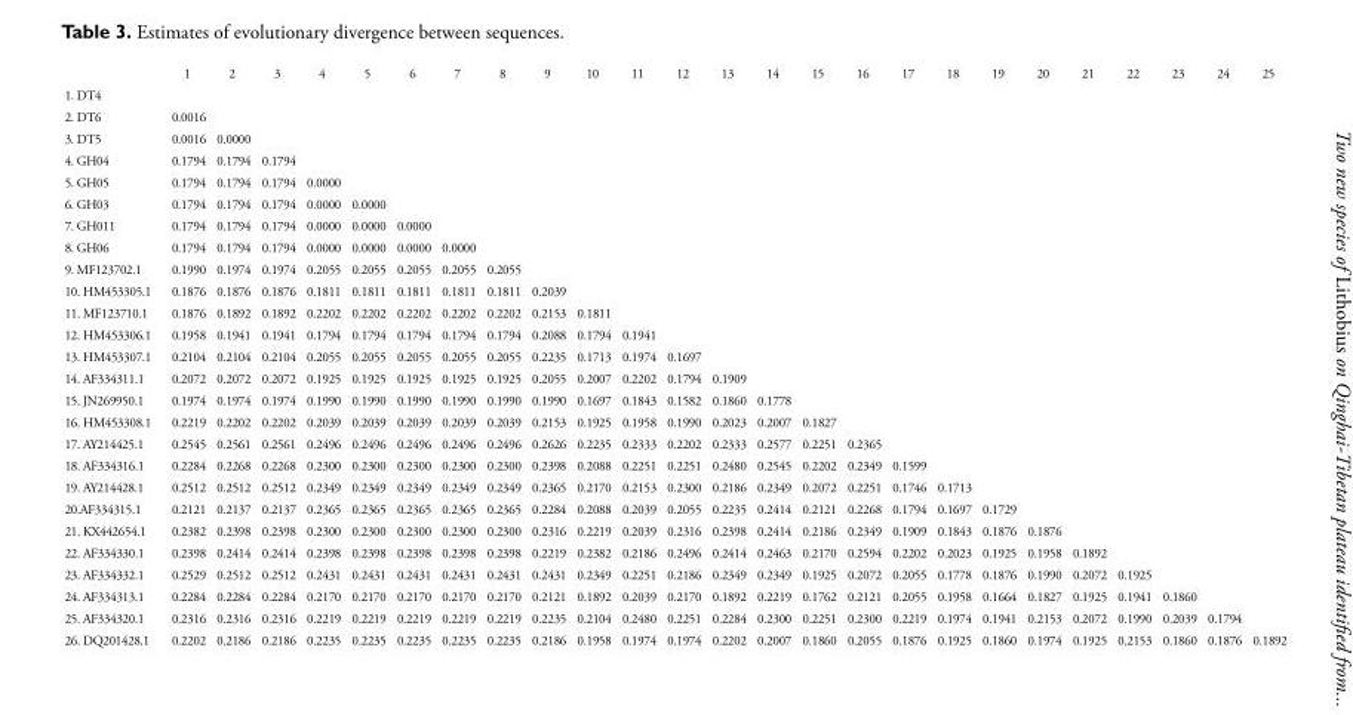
<table><thead><tr><td></td><td>1</td><td>2</td><td>3</td><td>4</td><td>5</td><td>6</td><td>7</td><td>8</td><td>9</td><td>10</td><td>11</td><td>12</td><td>13</td><td>14</td><td>15</td><td>16</td><td>17</td><td>18</td><td>19</td><td>20</td><td>21</td><td>22</td><td>23</td><td>24</td><td>25</td></tr></thead><tbody><tr><td colspan="26">1. DT4</td></tr><tr><td>2. DT6</td><td>0.0016</td><td></td><td></td><td></td><td></td><td></td><td></td><td></td><td></td><td></td><td></td><td></td><td></td><td></td><td></td><td></td><td></td><td></td><td></td><td></td><td></td><td></td><td></td><td></td><td></td></tr><tr><td>3. DT5</td><td>0.0016</td><td>0.0000</td><td></td><td></td><td></td><td></td><td></td><td></td><td></td><td></td><td></td><td></td><td></td><td></td><td></td><td></td><td></td><td></td><td></td><td></td><td></td><td></td><td></td><td></td><td></td></tr><tr><td>4. GH04</td><td>0.1794</td><td>0.1794</td><td>0.1794</td><td></td><td></td><td></td><td></td><td></td><td></td><td></td><td></td><td></td><td></td><td></td><td></td><td></td><td></td><td></td><td></td><td></td><td></td><td></td><td></td><td></td><td></td></tr><tr><td>5. GH05</td><td>0.1794</td><td>0.1794</td><td>0.1794</td><td>0.0000</td><td></td><td></td><td></td><td></td><td></td><td></td><td></td><td></td><td></td><td></td><td></td><td></td><td></td><td></td><td></td><td></td><td></td><td></td><td></td><td></td><td></td></tr><tr><td>6. GH03</td><td>0.1794</td><td>0.1794</td><td>0.1794</td><td>0.0000</td><td>0.0000</td><td></td><td></td><td></td><td></td><td></td><td></td><td></td><td></td><td></td><td></td><td></td><td></td><td></td><td></td><td></td><td></td><td></td><td></td><td></td><td></td></tr><tr><td>7. GH011</td><td>0.1794</td><td>0.1794</td><td>0.1794</td><td>0.0000</td><td>0.0000</td><td>0.0000</td><td></td><td></td><td></td><td></td><td></td><td></td><td></td><td></td><td></td><td></td><td></td><td></td><td></td><td></td><td></td><td></td><td></td><td></td><td></td></tr><tr><td>8. GH06</td><td>0.1794</td><td>0.1794</td><td>0.1794</td><td>0.0000</td><td>0.0000</td><td>0.0000</td><td>0.0000</td><td></td><td></td><td></td><td></td><td></td><td></td><td></td><td></td><td></td><td></td><td></td><td></td><td></td><td></td><td></td><td></td><td></td><td></td></tr><tr><td>9. MF123702.1</td><td>0.1990</td><td>0.1974</td><td>0.1974</td><td>0.2055</td><td>0.2055</td><td>0.2055</td><td>0.2055</td><td>0.2055</td><td></td><td></td><td></td><td></td><td></td><td></td><td></td><td></td><td></td><td></td><td></td><td></td><td></td><td></td><td></td><td></td><td></td></tr><tr><td>10. HM453305.1</td><td>0.1876</td><td>0.1876</td><td>0.1876</td><td>0.1811</td><td>0.1811</td><td>0.1811</td><td>0.1811</td><td>0.1811</td><td>0.2039</td><td></td><td></td><td></td><td></td><td></td><td></td><td></td><td></td><td></td><td></td><td></td><td></td><td></td><td></td><td></td><td></td></tr><tr><td>11. MF123710.1</td><td>0.1876</td><td>0.1892</td><td>0.1892</td><td>0.2202</td><td>0.2202</td><td>0.2202</td><td>0.2202</td><td>0.2202</td><td>0.2153</td><td>0.1811</td><td></td><td></td><td></td><td></td><td></td><td></td><td></td><td></td><td></td><td></td><td></td><td></td><td></td><td></td><td></td></tr><tr><td>12. HM453306.1</td><td>0.1958</td><td>0.1941</td><td>0.1941</td><td>0.1794</td><td>0.1794</td><td>0.1794</td><td>0.1794</td><td>0.1794</td><td>0.2088</td><td>0.1794</td><td>0.1941</td><td></td><td></td><td></td><td></td><td></td><td></td><td></td><td></td><td></td><td></td><td></td><td></td><td></td><td></td></tr><tr><td>13. HM453307.1</td><td>0.2104</td><td>0.2104</td><td>0.2104</td><td>0.2055</td><td>0.2055</td><td>0.2055</td><td>0.2055</td><td>0.2055</td><td>0.2235</td><td>0.1713</td><td>0.1974</td><td>0.1697</td><td></td><td></td><td></td><td></td><td></td><td></td><td></td><td></td><td></td><td></td><td></td><td></td><td></td></tr><tr><td>14. AF334311.1</td><td>0.2072</td><td>0.2072</td><td>0.2072</td><td>0.1925</td><td>0.1925</td><td>0.1925</td><td>0.1925</td><td>0.1925</td><td>0.2055</td><td>0.2007</td><td>0.2202</td><td>0.1794</td><td>0.1909</td><td></td><td></td><td></td><td></td><td></td><td></td><td></td><td></td><td></td><td></td><td></td><td></td></tr><tr><td>15. JN269950.1</td><td>0.1974</td><td>0.1974</td><td>0.1974</td><td>0.1990</td><td>0.1990</td><td>0.1990</td><td>0.1990</td><td>0.1990</td><td>0.1990</td><td>0.1697</td><td>0.1843</td><td>0.1582</td><td>0.1860</td><td>0.1778</td><td></td><td></td><td></td><td></td><td></td><td></td><td></td><td></td><td></td><td></td><td></td></tr><tr><td>16. HM453308.1</td><td>0.2219</td><td>0.2202</td><td>0.2202</td><td>0.2039</td><td>0.2039</td><td>0.2039</td><td>0.2039</td><td>0.2039</td><td>0.2153</td><td>0.1925</td><td>0.1958</td><td>0.1990</td><td>0.2023</td><td>0.2007</td><td>0.1827</td><td></td><td></td><td></td><td></td><td></td><td></td><td></td><td></td><td></td><td></td></tr><tr><td>17. AY214425.1</td><td>0.2545</td><td>0.2561</td><td>0.2561</td><td>0.2496</td><td>0.2496</td><td>0.2496</td><td>0.2496</td><td>0.2496</td><td>0.2626</td><td>0.2235</td><td>0.2333</td><td>0.2202</td><td>0.2333</td><td>0.2577</td><td>0.2251</td><td>0.2365</td><td></td><td></td><td></td><td></td><td></td><td></td><td></td><td></td><td></td></tr><tr><td>18. AF334316.1</td><td>0.2284</td><td>0.2268</td><td>0.2268</td><td>0.2300</td><td>0.2300</td><td>0.2300</td><td>0.2300</td><td>0.2300</td><td>0.2398</td><td>0.2088</td><td>0.2251</td><td>0.2251</td><td>0.2480</td><td>0.2545</td><td>0.2202</td><td>0.2349</td><td>0.1599</td><td></td><td></td><td></td><td></td><td></td><td></td><td></td><td></td></tr><tr><td>19. AY214428.1</td><td>0.2512</td><td>0.2512</td><td>0.2512</td><td>0.2349</td><td>0.2349</td><td>0.2349</td><td>0.2349</td><td>0.2349</td><td>0.2365</td><td>0.2170</td><td>0.2153</td><td>0.2300</td><td>0.2186</td><td>0.2349</td><td>0.2072</td><td>0.2251</td><td>0.1746</td><td>0.1713</td><td></td><td></td><td></td><td></td><td></td><td></td><td></td></tr><tr><td>20.AF334315.1</td><td>0.2121</td><td>0.2137</td><td>0.2137</td><td>0.2365</td><td>0.2365</td><td>0.2365</td><td>0.2365</td><td>0.2365</td><td>0.2284</td><td>0.2088</td><td>0.2039</td><td>0.2055</td><td>0.2235</td><td>0.2414</td><td>0.2121</td><td>0.2268</td><td>0.1794</td><td>0.1697</td><td>0.1729</td><td></td><td></td><td></td><td></td><td></td><td></td></tr><tr><td>21. KX442654.1</td><td>0.2382</td><td>0.2398</td><td>0.2398</td><td>0.2300</td><td>0.2300</td><td>0.2300</td><td>0.2300</td><td>0.2300</td><td>0.2316</td><td>0.2219</td><td>0.2039</td><td>0.2316</td><td>0.2398</td><td>0.2414</td><td>0.2186</td><td>0.2349</td><td>0.1909</td><td>0.1843</td><td>0.1876</td><td>0.1876</td><td></td><td></td><td></td><td></td><td></td></tr><tr><td>22. AF334330.1</td><td>0.2398</td><td>0.2414</td><td>0.2414</td><td>0.2398</td><td>0.2398</td><td>0.2398</td><td>0.2398</td><td>0.2398</td><td>0.2219</td><td>0.2382</td><td>0.2186</td><td>0.2496</td><td>0.2414</td><td>0.2463</td><td>0.2170</td><td>0.2594</td><td>0.2202</td><td>0.2023</td><td>0.1925</td><td>0.1958</td><td>0.1892</td><td></td><td></td><td></td><td></td></tr><tr><td>23. AF334332.1</td><td>0.2529</td><td>0.2512</td><td>0.2512</td><td>0.2431</td><td>0.2431</td><td>0.2431</td><td>0.2431</td><td>0.2431</td><td>0.2431</td><td>0.2349</td><td>0.2251</td><td>0.2186</td><td>0.2349</td><td>0.2349</td><td>0.1925</td><td>0.2072</td><td>0.2055</td><td>0.1778</td><td>0.1876</td><td>0.1990</td><td>0.2072</td><td>0.1925</td><td></td><td></td><td></td></tr><tr><td>24. AF334313.1</td><td>0.2284</td><td>0.2284</td><td>0.2284</td><td>0.2170</td><td>0.2170</td><td>0.2170</td><td>0.2170</td><td>0.2170</td><td>0.2121</td><td>0.1892</td><td>0.2039</td><td>0.2170</td><td>0.1892</td><td>0.2219</td><td>0.1762</td><td>0.2121</td><td>0.2055</td><td>0.1958</td><td>0.1664</td><td>0.1827</td><td>0.1925</td><td>0.1941</td><td>0.1860</td><td></td><td></td></tr><tr><td>25. AF334320.1</td><td>0.2316</td><td>0.2316</td><td>0.2316</td><td>0.2219</td><td>0.2219</td><td>0.2219</td><td>0.2219</td><td>0.2219</td><td>0.2235</td><td>0.2104</td><td>0.2480</td><td>0.2251</td><td>0.2284</td><td>0.2300</td><td>0.2251</td><td>0.2300</td><td>0.2219</td><td>0.1974</td><td>0.1941</td><td>0.2153</td><td>0.2072</td><td>0.1990</td><td>0.2039</td><td>0.1794</td><td></td></tr><tr><td>26. DQ201428.1</td><td>0.2202</td><td>0.2186</td><td>0.2186</td><td>0.2235</td><td>0.2235</td><td>0.2235</td><td>0.2235</td><td>0.2235</td><td>0.2186</td><td>0.1958</td><td>0.1974</td><td>0.1974</td><td>0.2202</td><td>0.2007</td><td>0.1860</td><td>0.2055</td><td>0.1876</td><td>0.1925</td><td>0.1860</td><td>0.1974</td><td>0.1925</td><td>0.2153</td><td>0.1860</td><td>0.1876</td><td>0.1892</td></tr></tbody></table>